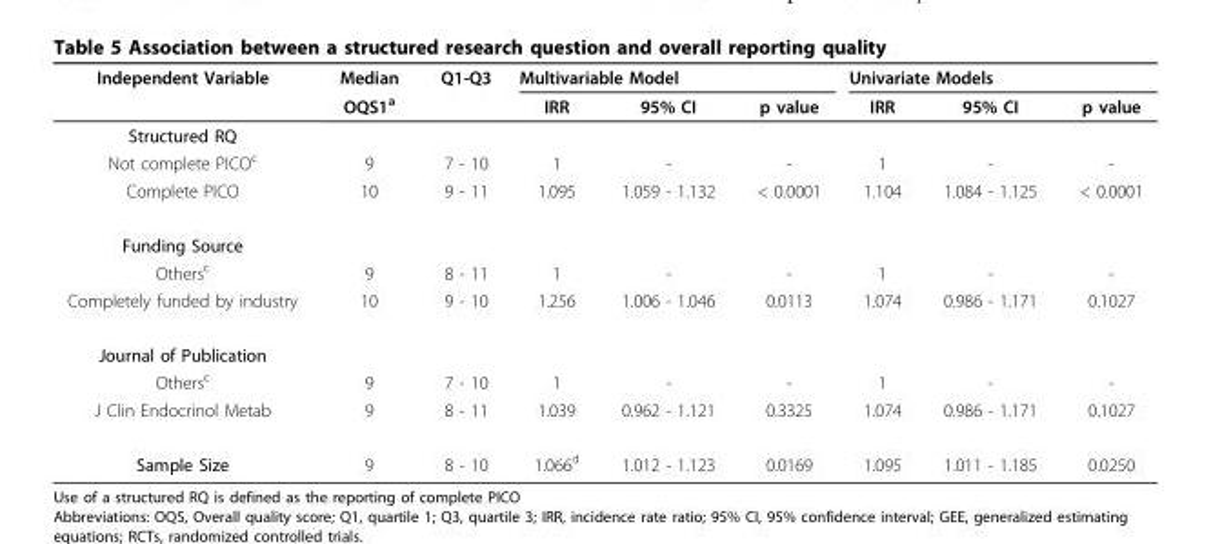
<table><thead><tr><td rowspan="2">Independent Variable</td><td rowspan="2">Median OQS1<sup>a</sup></td><td rowspan="2">Q1-Q3</td><td colspan="3">Multivariable Model</td><td colspan="3">Univariate Models</td></tr><tr><td>IRR</td><td>95% CI</td><td>p value</td><td>IRR</td><td>95% CI</td><td>p value</td></tr></thead><tbody><tr><td colspan="9">Structured RQ</td></tr><tr><td>Not complete PICO<sup>c</sup></td><td>9</td><td>7 - 10</td><td>1</td><td>-</td><td>-</td><td>1</td><td>-</td><td>-</td></tr><tr><td>Complete PICO</td><td>10</td><td>9 - 11</td><td>1.095</td><td>1.059 - 1.132</td><td>&lt; 0.0001</td><td>1.104</td><td>1.084 - 1.125</td><td>&lt; 0.0001</td></tr><tr><td colspan="9">Funding Source</td></tr><tr><td>Others<sup>c</sup></td><td>9</td><td>8 - 11</td><td>1</td><td>-</td><td>-</td><td>1</td><td>-</td><td>-</td></tr><tr><td>Completely funded by industry</td><td>10</td><td>9 - 10</td><td>1.256</td><td>1.006 - 1.046</td><td>0.0113</td><td>1.074</td><td>0.986 - 1.171</td><td>0.1027</td></tr><tr><td colspan="9">Journal of Publication</td></tr><tr><td>Others<sup>c</sup></td><td>9</td><td>7 - 10</td><td>1</td><td>-</td><td>-</td><td>1</td><td>-</td><td>-</td></tr><tr><td>J Clin Endocrinol Metab</td><td>9</td><td>8 - 11</td><td>1.039</td><td>0.962 - 1.121</td><td>0.3325</td><td>1.074</td><td>0.986 - 1.171</td><td>0.1027</td></tr><tr><td>Sample Size</td><td>9</td><td>8 - 10</td><td>1.066<sup>d</sup></td><td>1.012 - 1.123</td><td>0.0169</td><td>1.095</td><td>1.011 - 1.185</td><td>0.0250</td></tr></tbody></table>